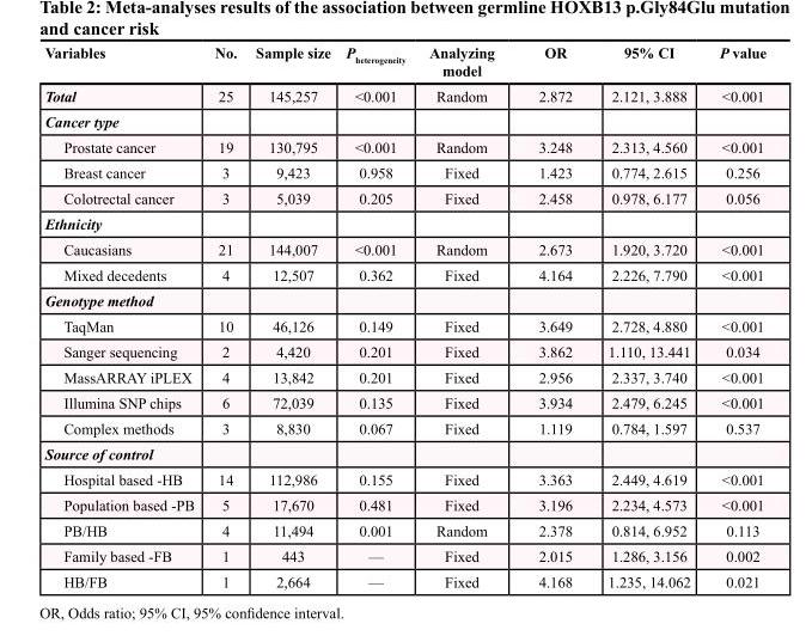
<table><thead><tr><td>Variables</td><td>No.</td><td>Sample size</td><td>P<sub>heterogeneity</sub></td><td>Analyzing model</td><td>OR</td><td>95% CI</td><td>P value</td></tr></thead><tbody><tr><td>Total</td><td>25</td><td>145,257</td><td>&lt;0.001</td><td>Random</td><td>2.872</td><td>2.121, 3.888</td><td>&lt;0.001</td></tr><tr><td colspan="8">Cancer type</td></tr><tr><td>Prostate cancer</td><td>19</td><td>130,795</td><td>&lt;0.001</td><td>Random</td><td>3.248</td><td>2.313, 4.560</td><td>&lt;0.001</td></tr><tr><td>Breast cancer</td><td>3</td><td>9,423</td><td>0.958</td><td>Fixed</td><td>1.423</td><td>0.774, 2.615</td><td>0.256</td></tr><tr><td>Colotrectal cancer</td><td>3</td><td>5,039</td><td>0.205</td><td>Fixed</td><td>2.458</td><td>0.978, 6.177</td><td>0.056</td></tr><tr><td colspan="8">Ethnicity</td></tr><tr><td>Caucasians</td><td>21</td><td>144,007</td><td>&lt;0.001</td><td>Random</td><td>2.673</td><td>1.920, 3.720</td><td>&lt;0.001</td></tr><tr><td>Mixed decedents</td><td>4</td><td>12,507</td><td>0.362</td><td>Fixed</td><td>4.164</td><td>2.226, 7.790</td><td>&lt;0.001</td></tr><tr><td colspan="8">Genotype method</td></tr><tr><td>TaqMan</td><td>10</td><td>46,126</td><td>0.149</td><td>Fixed</td><td>3.649</td><td>2.728, 4.880</td><td>&lt;0.001</td></tr><tr><td>Sanger sequencing</td><td>2</td><td>4,420</td><td>0.201</td><td>Fixed</td><td>3.862</td><td>1.110, 13.441</td><td>0.034</td></tr><tr><td>MassARRAY iPLEX</td><td>4</td><td>13,842</td><td>0.201</td><td>Fixed</td><td>2.956</td><td>2.337, 3.740</td><td>&lt;0.001</td></tr><tr><td>Illumina SNP chips</td><td>6</td><td>72,039</td><td>0.135</td><td>Fixed</td><td>3.934</td><td>2.479, 6.245</td><td>&lt;0.001</td></tr><tr><td>Complex methods</td><td>3</td><td>8,830</td><td>0.067</td><td>Fixed</td><td>1.119</td><td>0.784, 1.597</td><td>0.537</td></tr><tr><td colspan="8">Source of control</td></tr><tr><td>Hospital based -HB</td><td>14</td><td>112,986</td><td>0.155</td><td>Fixed</td><td>3.363</td><td>2.449, 4.619</td><td>&lt;0.001</td></tr><tr><td>Population based -PB</td><td>5</td><td>17,670</td><td>0.481</td><td>Fixed</td><td>3.196</td><td>2.234, 4.573</td><td>&lt;0.001</td></tr><tr><td>PB/HB</td><td>4</td><td>11,494</td><td>0.001</td><td>Random</td><td>2.378</td><td>0.814, 6.952</td><td>0.113</td></tr><tr><td>Family based -FB</td><td>1</td><td>443</td><td>—</td><td>Fixed</td><td>2.015</td><td>1.286, 3.156</td><td>0.002</td></tr><tr><td>HB/FB</td><td>1</td><td>2,664</td><td>—</td><td>Fixed</td><td>4.168</td><td>1.235, 14.062</td><td>0.021</td></tr></tbody></table>